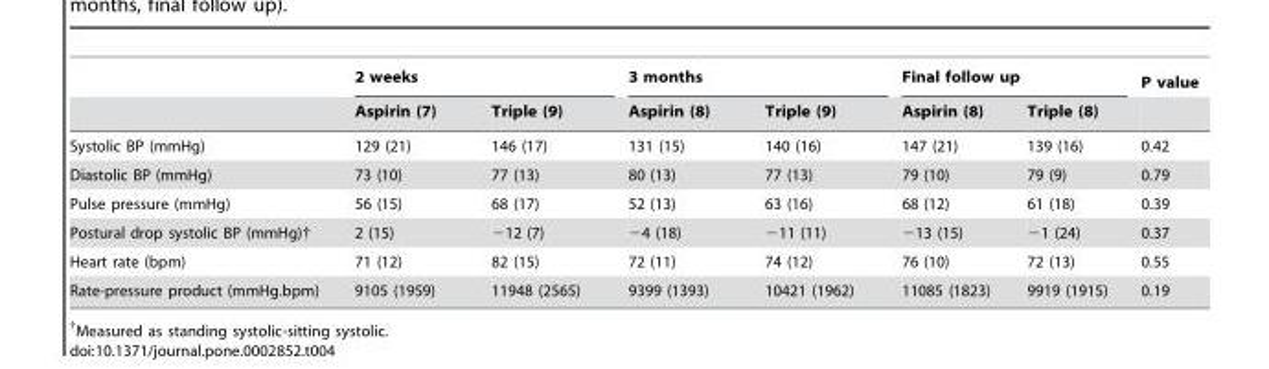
<table><thead><tr><td rowspan="2"></td><td colspan="2">2 weeks</td><td colspan="2">3 months</td><td colspan="2">Final follow up</td><td rowspan="2">P value</td></tr><tr><td>Aspirin (7)</td><td>Triple (9)</td><td>Aspirin (8)</td><td>Triple (9)</td><td>Aspirin (8)</td><td>Triple (8)</td></tr></thead><tbody><tr><td>Systolic BP (mmHg)</td><td>129 (21)</td><td>146 (17)</td><td>131 (15)</td><td>140 (16)</td><td>147 (21)</td><td>139 (16)</td><td>0.42</td></tr><tr><td>Diastolic BP (mmHg)</td><td>73 (10)</td><td>77 (13)</td><td>80 (13)</td><td>77 (13)</td><td>79 (10)</td><td>79 (9)</td><td>0.79</td></tr><tr><td>Pulse pressure (mmHg)</td><td>56 (15)</td><td>68 (17)</td><td>52 (13)</td><td>63 (16)</td><td>68 (12)</td><td>61 (18)</td><td>0.39</td></tr><tr><td>Postural drop systolic BP (mmHg)†</td><td>2 (15)</td><td>−12 (7)</td><td>−4 (18)</td><td>−11 (11)</td><td>−13 (15)</td><td>−1 (24)</td><td>0.37</td></tr><tr><td>Heart rate (bpm)</td><td>71 (12)</td><td>82 (15)</td><td>72 (11)</td><td>74 (12)</td><td>76 (10)</td><td>72 (13)</td><td>0.55</td></tr><tr><td>Rate-pressure product (mmHg.bpm)</td><td>9105 (1959)</td><td>11948 (2565)</td><td>9399 (1393)</td><td>10421 (1962)</td><td>11085 (1823)</td><td>9919 (1915)</td><td>0.19</td></tr></tbody></table>